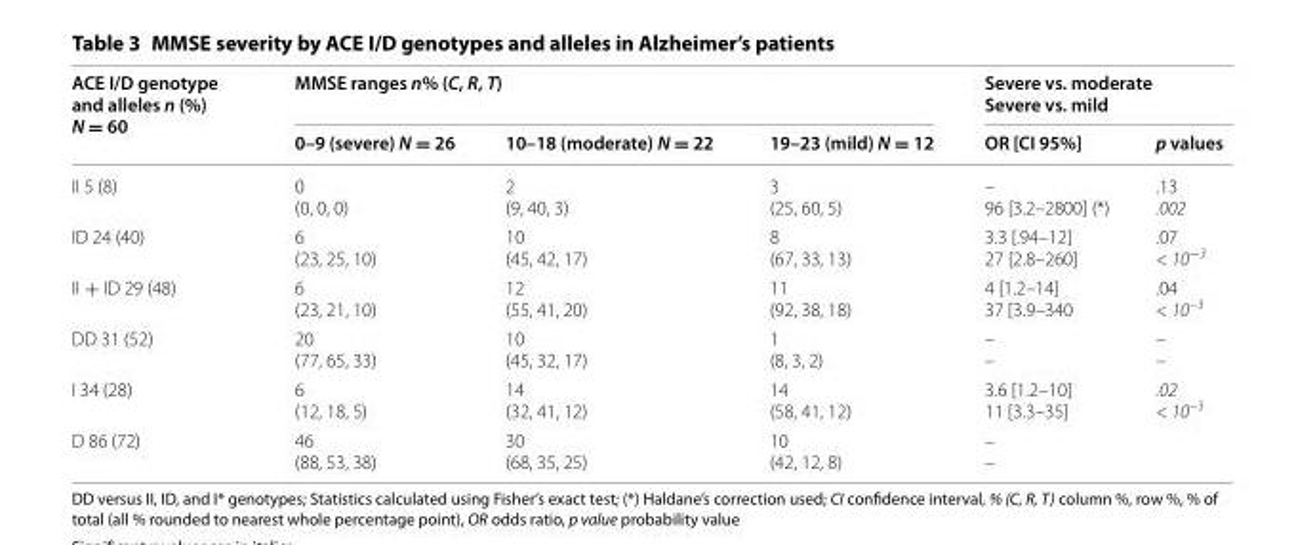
<table><thead><tr><td rowspan="2">ACE I/D genotype and alleles n (%) N = 60</td><td colspan="3">MMSE ranges n% (C, R, T)</td><td colspan="2">Severe vs. moderate Severe vs. mild</td></tr><tr><td>0–9 (severe) N = 26</td><td>10–18 (moderate) N = 22</td><td>19–23 (mild) N = 12</td><td>OR [CI 95%]</td><td>p values</td></tr></thead><tbody><tr><td>II 5 (8)</td><td>0 (0, 0, 0)</td><td>2 (9, 40, 3)</td><td>3 (25, 60, 5)</td><td>– 96 [3.2–2800] (*)</td><td>.13 .002</td></tr><tr><td>ID 24 (40)</td><td>6 (23, 25, 10)</td><td>10 (45, 42, 17)</td><td>8 (67, 33, 13)</td><td>3.3 [.94–12] 27 [2.8–260]</td><td>.07 &lt; 10<sup>−3</sup></td></tr><tr><td>II + ID 29 (48)</td><td>6 (23, 21, 10)</td><td>12 (55, 41, 20)</td><td>11 (92, 38, 18)</td><td>4 [1.2–14] 37 [3.9–340</td><td>.04 &lt; 10<sup>−3</sup></td></tr><tr><td>DD 31 (52)</td><td>20 (77, 65, 33)</td><td>10 (45, 32, 17)</td><td>1 (8, 3, 2)</td><td>– –</td><td>– –</td></tr><tr><td>I 34 (28)</td><td>6 (12, 18, 5)</td><td>14 (32, 41, 12)</td><td>14 (58, 41, 12)</td><td>3.6 [1.2–10] 11 [3.3–35]</td><td rowspan="2">.02 &lt; 10<sup>−3</sup></td></tr><tr><td>D 86 (72)</td><td>46 (88, 53, 38)</td><td>30 (68, 35, 25)</td><td>10 (42, 12, 8)</td><td>– –</td></tr></tbody></table>